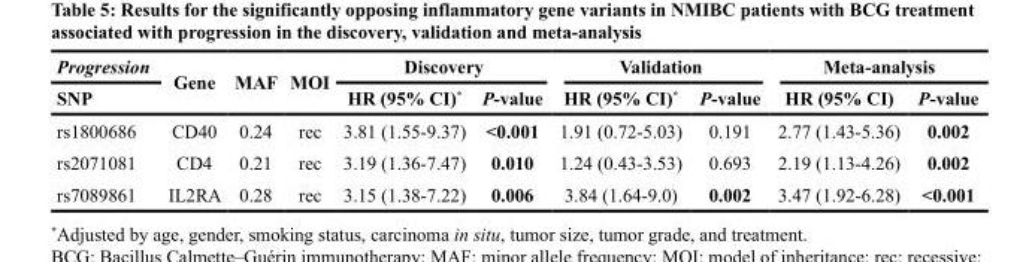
<table><thead><tr><td rowspan="2">Progression SNP</td><td rowspan="2">Gene</td><td rowspan="2">MAF</td><td rowspan="2">MOI</td><td colspan="2">Discovery</td><td colspan="2">Validation</td><td colspan="2">Meta-analysis</td></tr><tr><td>HR (95% CI)*</td><td>P-value</td><td>HR (95% CI)*</td><td>P-value</td><td>HR (95% CI)</td><td>P-value</td></tr></thead><tbody><tr><td>rs1800686</td><td>CD40</td><td>0.24</td><td>rec</td><td>3.81 (1.55-9.37)</td><td>&lt;0.001</td><td>1.91 (0.72-5.03)</td><td>0.191</td><td>2.77 (1.43-5.36)</td><td>0.002</td></tr><tr><td>rs2071081</td><td>CD4</td><td>0.21</td><td>rec</td><td>3.19 (1.36-7.47)</td><td>0.010</td><td>1.24 (0.43-3.53)</td><td>0.693</td><td>2.19 (1.13-4.26)</td><td>0.002</td></tr><tr><td>rs7089861</td><td>IL2RA</td><td>0.28</td><td>rec</td><td>3.15 (1.38-7.22)</td><td>0.006</td><td>3.84 (1.64-9.0)</td><td>0.002</td><td>3.47 (1.92-6.28)</td><td>&lt;0.001</td></tr></tbody></table>